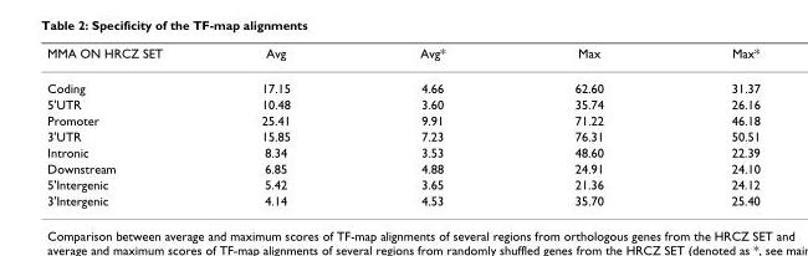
<table><thead><tr><td>MMA ON HRCZ SET</td><td>Avg</td><td>Avg*</td><td>Max</td><td>Max*</td></tr></thead><tbody><tr><td>Coding</td><td>17.15</td><td>4.66</td><td>62.60</td><td>31.37</td></tr><tr><td>5&#x27;UTR</td><td>10.48</td><td>3.60</td><td>35.74</td><td>26.16</td></tr><tr><td>Promoter</td><td>25.41</td><td>9.91</td><td>71.22</td><td>46.18</td></tr><tr><td>3&#x27;UTR</td><td>15.85</td><td>7.23</td><td>76.31</td><td>50.51</td></tr><tr><td>Intronic</td><td>8.34</td><td>3.53</td><td>48.60</td><td>22.39</td></tr><tr><td>Downstream</td><td>6.85</td><td>4.88</td><td>24.91</td><td>24.10</td></tr><tr><td>5&#x27;Intergenic</td><td>5.42</td><td>3.65</td><td>21.36</td><td>24.12</td></tr><tr><td>3&#x27;Intergenic</td><td>4.14</td><td>4.53</td><td>35.70</td><td>25.40</td></tr></tbody></table>